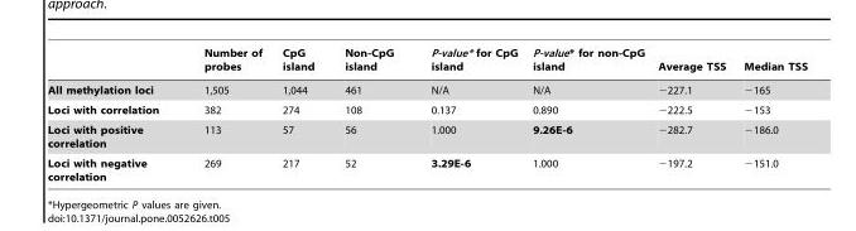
<table><thead><tr><td></td><td>Number of probes</td><td>CpG island</td><td>Non-CpG island</td><td>P-value* for CpG island</td><td>P-value* for non-CpG island</td><td>Average TSS</td><td>Median TSS</td></tr></thead><tbody><tr><td>All methylation loci</td><td>1,505</td><td>1,044</td><td>461</td><td>N/A</td><td>N/A</td><td>−227.1</td><td>−165</td></tr><tr><td>Loci with correlation</td><td>382</td><td>274</td><td>108</td><td>0.137</td><td>0.890</td><td>−222.5</td><td>−153</td></tr><tr><td>Loci with positive correlation</td><td>113</td><td>57</td><td>56</td><td>1.000</td><td>9.26E-6</td><td>−282.7</td><td>−186.0</td></tr><tr><td>Loci with negative correlation</td><td>269</td><td>217</td><td>52</td><td>3.29E-6</td><td>1.000</td><td>−197.2</td><td>−151.0</td></tr></tbody></table>